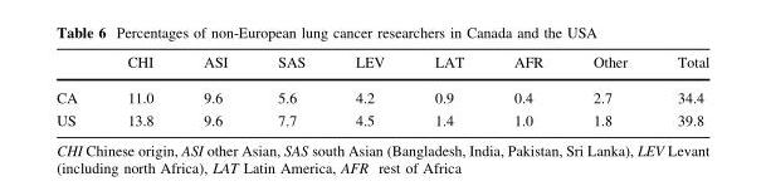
<table><thead><tr><td></td><td>CHI</td><td>ASI</td><td>SAS</td><td>LEV</td><td>LAT</td><td>AFR</td><td>Other</td><td>Total</td></tr></thead><tbody><tr><td>CA</td><td>11.0</td><td>9.6</td><td>5.6</td><td>4.2</td><td>0.9</td><td>0.4</td><td>2.7</td><td>34.4</td></tr><tr><td>US</td><td>13.8</td><td>9.6</td><td>7.7</td><td>4.5</td><td>1.4</td><td>1.0</td><td>1.8</td><td>39.8</td></tr></tbody></table>